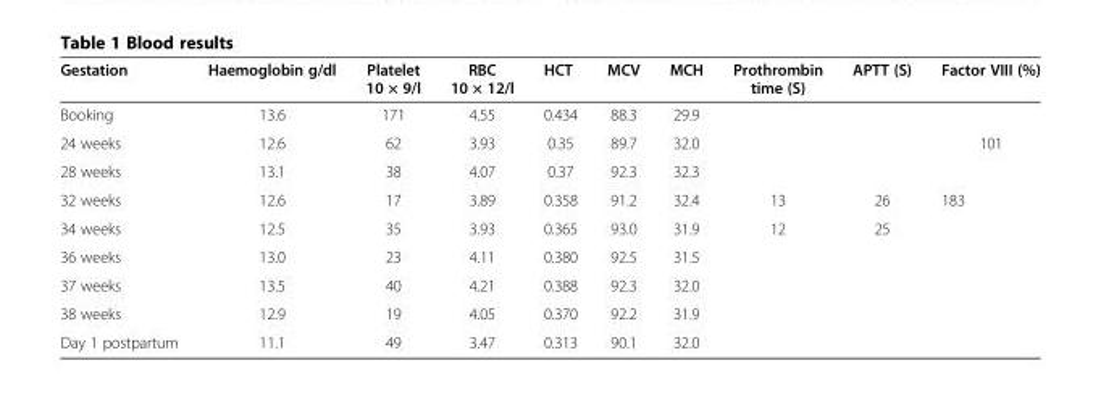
<table><thead><tr><td>Gestation</td><td>Haemoglobin g/dl</td><td>Platelet 10 × 9/l</td><td>RBC 10 × 12/l</td><td>HCT</td><td>MCV</td><td>MCH</td><td>Prothrombin time (S)</td><td>APTT (S)</td><td>Factor VIII (%)</td></tr></thead><tbody><tr><td>Booking</td><td>13.6</td><td>171</td><td>4.55</td><td>0.434</td><td>88.3</td><td>29.9</td><td></td><td></td><td></td></tr><tr><td>24 weeks</td><td>12.6</td><td>62</td><td>3.93</td><td>0.35</td><td>89.7</td><td>32.0</td><td></td><td></td><td>101</td></tr><tr><td>28 weeks</td><td>13.1</td><td>38</td><td>4.07</td><td>0.37</td><td>92.3</td><td>32.3</td><td></td><td></td><td></td></tr><tr><td>32 weeks</td><td>12.6</td><td>17</td><td>3.89</td><td>0.358</td><td>91.2</td><td>32.4</td><td>13</td><td>26</td><td>183</td></tr><tr><td>34 weeks</td><td>12.5</td><td>35</td><td>3.93</td><td>0.365</td><td>93.0</td><td>31.9</td><td>12</td><td>25</td><td></td></tr><tr><td>36 weeks</td><td>13.0</td><td>23</td><td>4.11</td><td>0.380</td><td>92.5</td><td>31.5</td><td></td><td></td><td></td></tr><tr><td>37 weeks</td><td>13.5</td><td>40</td><td>4.21</td><td>0.388</td><td>92.3</td><td>32.0</td><td></td><td></td><td></td></tr><tr><td>38 weeks</td><td>12.9</td><td>19</td><td>4.05</td><td>0.370</td><td>92.2</td><td>31.9</td><td></td><td></td><td></td></tr><tr><td>Day 1 postpartum</td><td>11.1</td><td>49</td><td>3.47</td><td>0.313</td><td>90.1</td><td>32.0</td><td></td><td></td><td></td></tr></tbody></table>